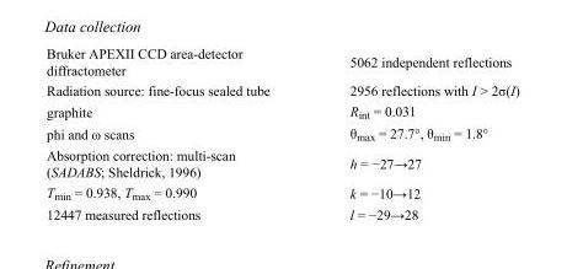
<table><tbody><tr><td>Bruker APEXII CCD area-detector diffractometer</td><td>5062 independent reflections</td></tr><tr><td>Radiation source: fine-focus sealed tube</td><td>2956 reflections with I &gt; 2σ(I)</td></tr><tr><td>graphite</td><td>R<sub>int</sub> = 0.031</td></tr><tr><td>phi and ω scans</td><td>θ<sub>max</sub> = 27.7°, θ<sub>min</sub> = 1.8°</td></tr><tr><td>Absorption correction: multi-scan (SADABS; Sheldrick, 1996)</td><td>h = −27→27</td></tr><tr><td>T<sub>min</sub> = 0.938, T<sub>max</sub> = 0.990</td><td>k = −10→12</td></tr><tr><td>12447 measured reflections</td><td>l = −29→28</td></tr></tbody></table>